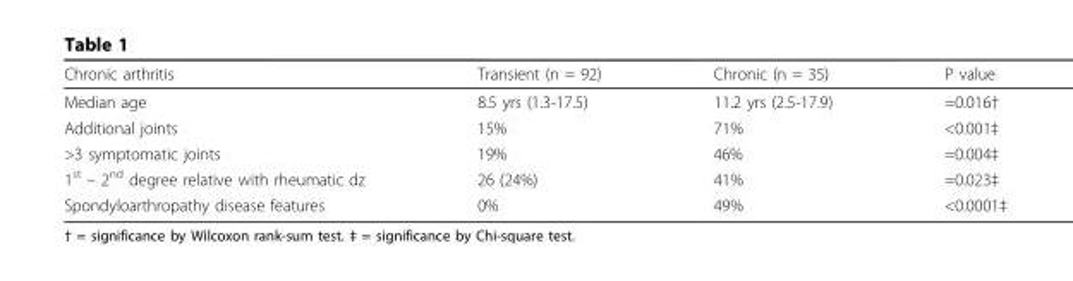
<table><thead><tr><td>Chronic arthritis</td><td>Transient (n = 92)</td><td>Chronic (n = 35)</td><td>P value</td></tr></thead><tbody><tr><td>Median age</td><td>8.5 yrs (1.3-17.5)</td><td>11.2 yrs (2.5-17.9)</td><td>=0.016†</td></tr><tr><td>Additional joints</td><td>15%</td><td>71%</td><td>&lt;0.001‡</td></tr><tr><td>&gt;3 symptomatic joints</td><td>19%</td><td>46%</td><td>=0.004‡</td></tr><tr><td>1<sup>st</sup> – 2<sup>nd</sup> degree relative with rheumatic dz</td><td>26 (24%)</td><td>41%</td><td>=0.023‡</td></tr><tr><td>Spondyloarthropathy disease features</td><td>0%</td><td>49%</td><td>&lt;0.0001‡</td></tr></tbody></table>